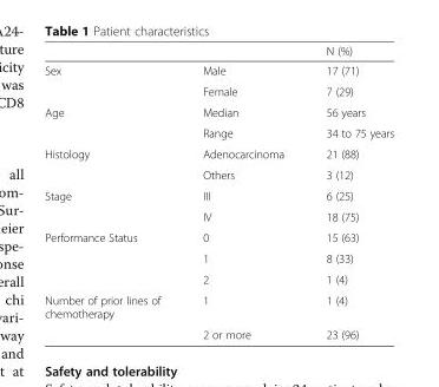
<table><thead><tr><td></td><td></td><td>N (%)</td></tr></thead><tbody><tr><td rowspan="2">Sex</td><td>Male</td><td>17 (71)</td></tr><tr><td>Female</td><td>7 (29)</td></tr><tr><td rowspan="2">Age</td><td>Median</td><td>56 years</td></tr><tr><td>Range</td><td>34 to 75 years</td></tr><tr><td rowspan="2">Histology</td><td>Adenocarcinoma</td><td>21 (88)</td></tr><tr><td>Others</td><td>3 (12)</td></tr><tr><td rowspan="2">Stage</td><td>III</td><td>6 (25)</td></tr><tr><td>IV</td><td>18 (75)</td></tr><tr><td rowspan="3">Performance Status</td><td>0</td><td>15 (63)</td></tr><tr><td>1</td><td>8 (33)</td></tr><tr><td>2</td><td>1 (4)</td></tr><tr><td rowspan="2">Number of prior lines of chemotherapy</td><td>1</td><td>1 (4)</td></tr><tr><td>2 or more</td><td>23 (96)</td></tr></tbody></table>